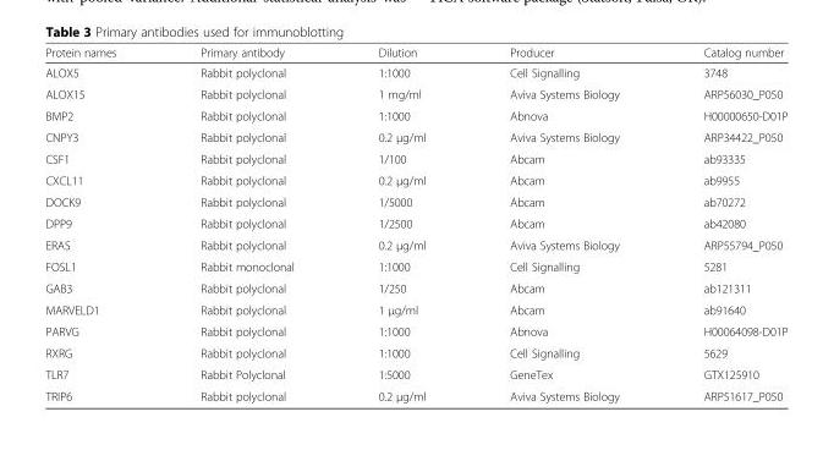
<table><thead><tr><td>Protein names</td><td>Primary antibody</td><td>Dilution</td><td>Producer</td><td>Catalog number</td></tr></thead><tbody><tr><td>ALOX5</td><td>Rabbit polyclonal</td><td>1:1000</td><td>Cell Signalling</td><td>3748</td></tr><tr><td>ALOX15</td><td>Rabbit polyclonal</td><td>1 mg/ml</td><td>Aviva Systems Biology</td><td>ARP56030_P050</td></tr><tr><td>BMP2</td><td>Rabbit polyclonal</td><td>1:1000</td><td>Abnova</td><td>H00000650-D01P</td></tr><tr><td>CNPY3</td><td>Rabbit polyclonal</td><td>0.2 μg/ml</td><td>Aviva Systems Biology</td><td>ARP34422_P050</td></tr><tr><td>CSF1</td><td>Rabbit polyclonal</td><td>1/100</td><td>Abcam</td><td>ab93335</td></tr><tr><td>CXCL11</td><td>Rabbit polyclonal</td><td>0.2 μg/ml</td><td>Abcam</td><td>ab9955</td></tr><tr><td>DOCK9</td><td>Rabbit polyclonal</td><td>1/5000</td><td>Abcam</td><td>ab70272</td></tr><tr><td>DPP9</td><td>Rabbit polyclonal</td><td>1/2500</td><td>Abcam</td><td>ab42080</td></tr><tr><td>ERAS</td><td>Rabbit polyclonal</td><td>0.2 μg/ml</td><td>Aviva Systems Biology</td><td>ARP55794_P050</td></tr><tr><td>FOSL1</td><td>Rabbit monoclonal</td><td>1:1000</td><td>Cell Signalling</td><td>5281</td></tr><tr><td>GAB3</td><td>Rabbit polyclonal</td><td>1/250</td><td>Abcam</td><td>ab121311</td></tr><tr><td>MARVELD1</td><td>Rabbit polyclonal</td><td>1 μg/ml</td><td>Abcam</td><td>ab91640</td></tr><tr><td>PARVG</td><td>Rabbit polyclonal</td><td>1:1000</td><td>Abnova</td><td>H00064098-D01P</td></tr><tr><td>RXRG</td><td>Rabbit polyclonal</td><td>1:1000</td><td>Cell Signalling</td><td>5629</td></tr><tr><td>TLR7</td><td>Rabbit Polyclonal</td><td>1:5000</td><td>GeneTex</td><td>GTX125910</td></tr><tr><td>TRIP6</td><td>Rabbit polyclonal</td><td>0.2 μg/ml</td><td>Aviva Systems Biology</td><td>ARP51617_P050</td></tr></tbody></table>